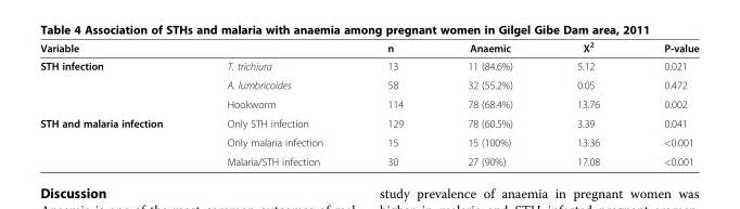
<table><thead><tr><td colspan="2">Variable</td><td rowspan="2">n 13</td><td rowspan="2">Anaemic 11 (84.6%)</td><td rowspan="2">Χ<sup>2</sup> 5.12</td><td rowspan="2">P-value 0.021</td></tr><tr><td>STH infection</td><td>T. trichiura</td></tr></thead><tbody><tr><td></td><td>A. lumbricoides</td><td>58</td><td>32 (55.2%)</td><td>0.05</td><td>0.472</td></tr><tr><td></td><td>Hookworm</td><td>114</td><td>78 (68.4%)</td><td>13.76</td><td>0.002</td></tr><tr><td rowspan="3">STH and malaria infection</td><td>Only STH infection</td><td>129</td><td>78 (60.5%)</td><td>3.39</td><td>0.041</td></tr><tr><td>Only malaria infection</td><td>15</td><td>15 (100%)</td><td>13.36</td><td>&lt;0.001</td></tr><tr><td>Malaria/STH infection</td><td>30</td><td>27 (90%)</td><td>17.08</td><td>&lt;0.001</td></tr></tbody></table>